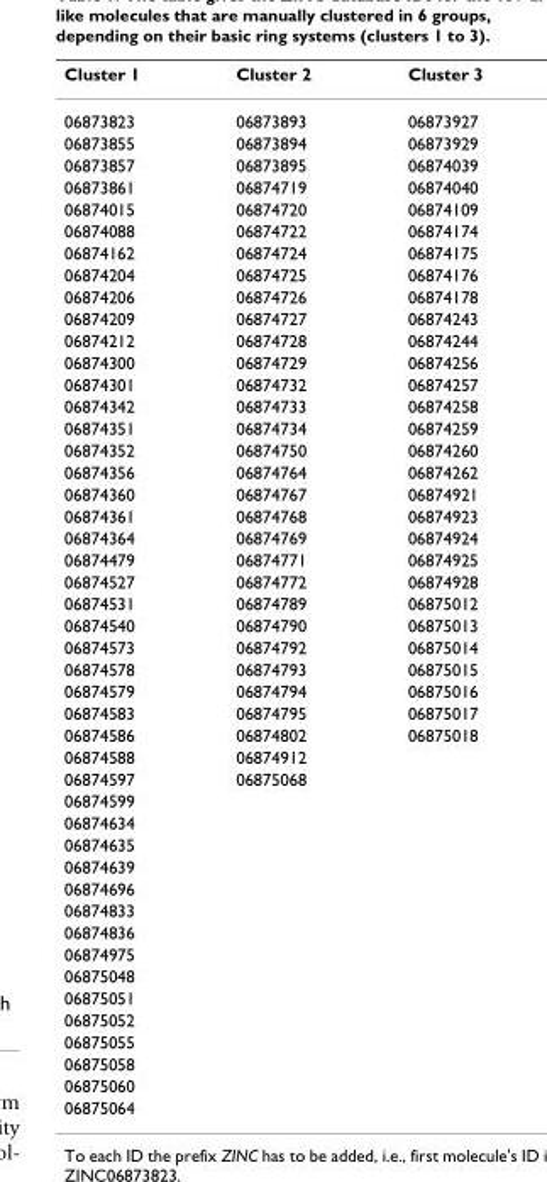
<table><thead><tr><td>Cluster 1</td><td>Cluster 2</td><td>Cluster 3</td></tr></thead><tbody><tr><td>06873823</td><td>06873893</td><td>06873927</td></tr><tr><td>06873855</td><td>06873894</td><td>06873929</td></tr><tr><td>06873857</td><td>06873895</td><td>06874039</td></tr><tr><td>06873861</td><td>06874719</td><td>06874040</td></tr><tr><td>06874015</td><td>06874720</td><td>06874109</td></tr><tr><td>06874088</td><td>06874722</td><td>06874174</td></tr><tr><td>06874162</td><td>06874724</td><td>06874175</td></tr><tr><td>06874204</td><td>06874725</td><td>06874176</td></tr><tr><td>06874206</td><td>06874726</td><td>06874178</td></tr><tr><td>06874209</td><td>06874727</td><td>06874243</td></tr><tr><td>06874212</td><td>06874728</td><td>06874244</td></tr><tr><td>06874300</td><td>06874729</td><td>06874256</td></tr><tr><td>06874301</td><td>06874732</td><td>06874257</td></tr><tr><td>06874342</td><td>06874733</td><td>06874258</td></tr><tr><td>06874351</td><td>06874734</td><td>06874259</td></tr><tr><td>06874352</td><td>06874750</td><td>06874260</td></tr><tr><td>06874356</td><td>06874764</td><td>06874262</td></tr><tr><td>06874360</td><td>06874767</td><td>06874921</td></tr><tr><td>06874361</td><td>06874768</td><td>06874923</td></tr><tr><td>06874364</td><td>06874769</td><td>06874924</td></tr><tr><td>06874479</td><td>06874771</td><td>06874925</td></tr><tr><td>06874527</td><td>06874772</td><td>06874928</td></tr><tr><td>06874531</td><td>06874789</td><td>06875012</td></tr><tr><td>06874540</td><td>06874790</td><td>06875013</td></tr><tr><td>06874573</td><td>06874792</td><td>06875014</td></tr><tr><td>06874578</td><td>06874793</td><td>06875015</td></tr><tr><td>06874579</td><td>06874794</td><td>06875016</td></tr><tr><td>06874583</td><td>06874795</td><td>06875017</td></tr><tr><td>06874586</td><td>06874802</td><td>06875018</td></tr><tr><td>06874588</td><td>06874912</td><td></td></tr><tr><td>06874597</td><td>06875068</td><td></td></tr><tr><td colspan="3">06874599</td></tr><tr><td colspan="3">06874634</td></tr><tr><td colspan="3">06874635</td></tr><tr><td colspan="3">06874639</td></tr><tr><td colspan="3">06874696</td></tr><tr><td colspan="3">06874833</td></tr><tr><td colspan="3">06874836</td></tr><tr><td colspan="3">06874975</td></tr><tr><td colspan="3">06875048</td></tr><tr><td colspan="3">06875051</td></tr><tr><td colspan="3">06875052</td></tr><tr><td colspan="3">06875055</td></tr><tr><td colspan="3">06875058</td></tr><tr><td colspan="3">06875060</td></tr><tr><td>06875064</td><td></td><td></td></tr></tbody></table>